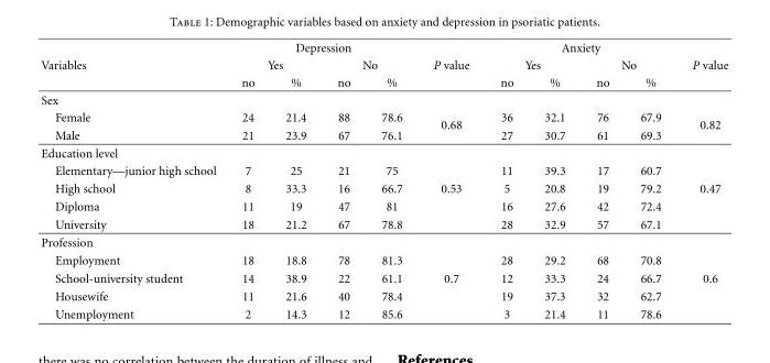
<table><thead><tr><td rowspan="3">Variables</td><td colspan="4">Depression</td><td rowspan="3">P value</td><td colspan="4">Anxiety</td><td rowspan="3">P value</td></tr><tr><td colspan="2">Yes</td><td colspan="2">No</td><td colspan="2">Yes</td><td colspan="2">No</td></tr><tr><td>no</td><td>%</td><td>no</td><td>%</td><td>no</td><td>%</td><td>no</td><td>%</td></tr></thead><tbody><tr><td colspan="11">Sex</td></tr><tr><td>Female</td><td>24</td><td>21.4</td><td>88</td><td>78.6</td><td rowspan="2">0.68</td><td>36</td><td>32.1</td><td>76</td><td>67.9</td><td rowspan="2">0.82</td></tr><tr><td>Male</td><td>21</td><td>23.9</td><td>67</td><td>76.1</td><td>27</td><td>30.7</td><td>61</td><td>69.3</td></tr><tr><td colspan="11">Education level</td></tr><tr><td>Elementary—junior high school</td><td>7</td><td>25</td><td>21</td><td>75</td><td></td><td>11</td><td>39.3</td><td>17</td><td>60.7</td><td></td></tr><tr><td>High school</td><td>8</td><td>33.3</td><td>16</td><td>66.7</td><td>0.53</td><td>5</td><td>20.8</td><td>19</td><td>79.2</td><td>0.47</td></tr><tr><td>Diploma</td><td>11</td><td>19</td><td>47</td><td>81</td><td></td><td>16</td><td>27.6</td><td>42</td><td>72.4</td><td></td></tr><tr><td>University</td><td>18</td><td>21.2</td><td>67</td><td>78.8</td><td></td><td>28</td><td>32.9</td><td>57</td><td>67.1</td><td></td></tr><tr><td colspan="11">Profession</td></tr><tr><td>Employment</td><td>18</td><td>18.8</td><td>78</td><td>81.3</td><td></td><td>28</td><td>29.2</td><td>68</td><td>70.8</td><td></td></tr><tr><td>School-university student</td><td>14</td><td>38.9</td><td>22</td><td>61.1</td><td>0.7</td><td>12</td><td>33.3</td><td>24</td><td>66.7</td><td>0.6</td></tr><tr><td>Housewife</td><td>11</td><td>21.6</td><td>40</td><td>78.4</td><td></td><td>19</td><td>37.3</td><td>32</td><td>62.7</td><td></td></tr><tr><td>Unemployment</td><td>2</td><td>14.3</td><td>12</td><td>85.6</td><td></td><td>3</td><td>21.4</td><td>11</td><td>78.6</td><td></td></tr></tbody></table>